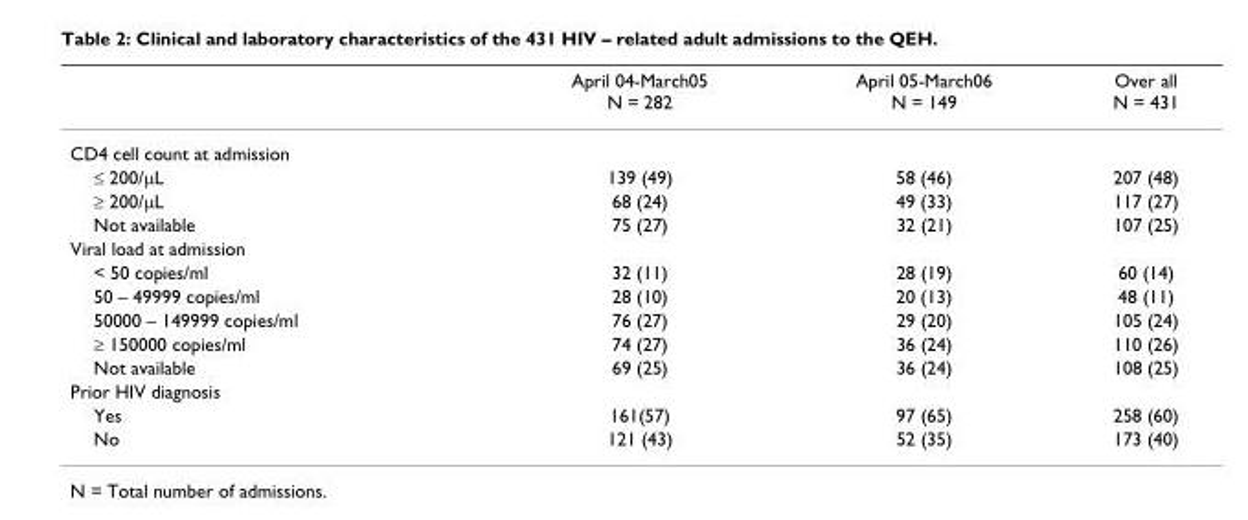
<table><thead><tr><td></td><td>April 04-March05 N = 282</td><td>April 05-March06 N = 149</td><td>Over all N = 431</td></tr></thead><tbody><tr><td colspan="4">CD4 cell count at admission</td></tr><tr><td>≤ 200/µL</td><td>139 (49)</td><td>58 (46)</td><td>207 (48)</td></tr><tr><td>≥ 200/µL</td><td>68 (24)</td><td>49 (33)</td><td>117 (27)</td></tr><tr><td>Not available</td><td>75 (27)</td><td>32 (21)</td><td>107 (25)</td></tr><tr><td colspan="4">Viral load at admission</td></tr><tr><td>&lt; 50 copies/ml</td><td>32 (11)</td><td>28 (19)</td><td>60 (14)</td></tr><tr><td>50 – 49999 copies/ml</td><td>28 (10)</td><td>20 (13)</td><td>48 (11)</td></tr><tr><td>50000 – 149999 copies/ml</td><td>76 (27)</td><td>29 (20)</td><td>105 (24)</td></tr><tr><td>≥ 150000 copies/ml</td><td>74 (27)</td><td>36 (24)</td><td>110 (26)</td></tr><tr><td>Not available</td><td>69 (25)</td><td>36 (24)</td><td>108 (25)</td></tr><tr><td colspan="4">Prior HIV diagnosis</td></tr><tr><td>Yes</td><td>161(57)</td><td>97 (65)</td><td>258 (60)</td></tr><tr><td>No</td><td>121 (43)</td><td>52 (35)</td><td>173 (40)</td></tr></tbody></table>